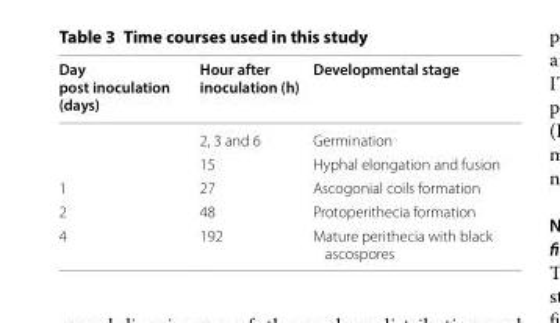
<table><thead><tr><td>Day post inoculation (days)</td><td>Hour after inoculation (h)</td><td>Developmental stage</td></tr></thead><tbody><tr><td></td><td>2, 3 and 6</td><td>Germination</td></tr><tr><td></td><td>15</td><td>Hyphal elongation and fusion</td></tr><tr><td>1</td><td>27</td><td>Ascogonial coils formation</td></tr><tr><td>2</td><td>48</td><td>Protoperithecia formation</td></tr><tr><td>4</td><td>192</td><td>Mature perithecia with black ascospores</td></tr></tbody></table>